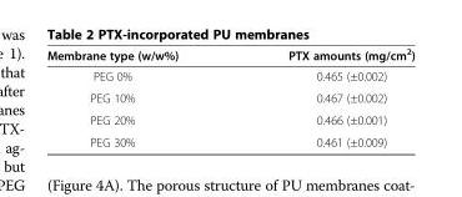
<table><thead><tr><td>Membrane type (w/w%)</td><td>PTX amounts (mg/cm<sup>2</sup>)</td></tr></thead><tbody><tr><td>PEG 0%</td><td>0.465 (±0.002)</td></tr><tr><td>PEG 10%</td><td>0.467 (±0.002)</td></tr><tr><td>PEG 20%</td><td>0.466 (±0.001)</td></tr><tr><td>PEG 30%</td><td>0.461 (±0.009)</td></tr></tbody></table>